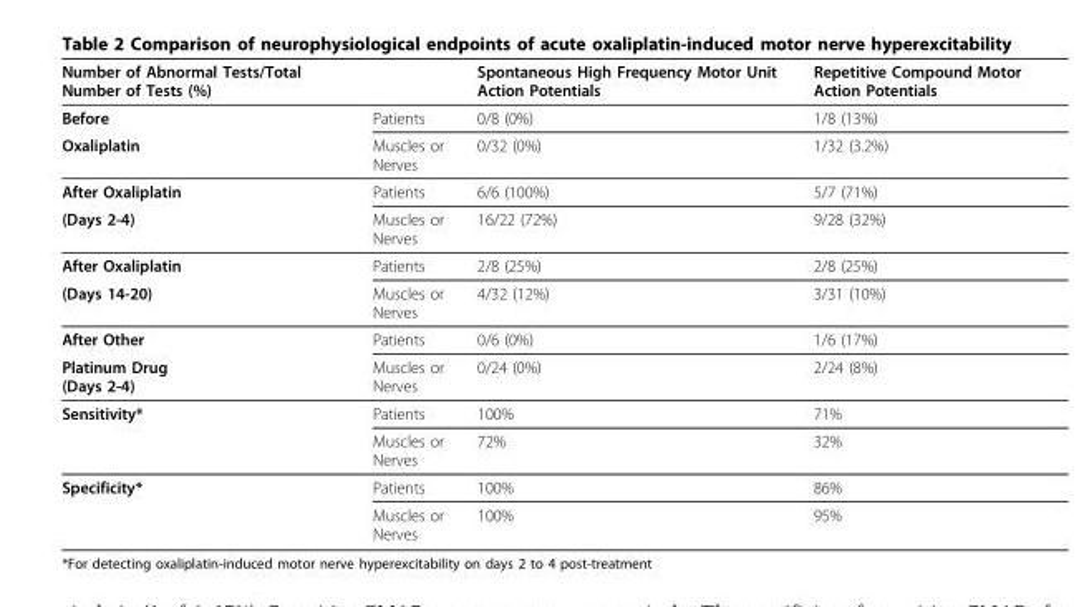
<table><thead><tr><td>Number of Abnormal Tests/Total Number of Tests (%)</td><td></td><td>Spontaneous High Frequency Motor Unit Action Potentials</td><td>Repetitive Compound Motor Action Potentials</td></tr></thead><tbody><tr><td>Before</td><td>Patients</td><td>0/8 (0%)</td><td>1/8 (13%)</td></tr><tr><td>Oxaliplatin</td><td>Muscles or Nerves</td><td>0/32 (0%)</td><td>1/32 (3.2%)</td></tr><tr><td>After Oxaliplatin</td><td>Patients</td><td>6/6 (100%)</td><td>5/7 (71%)</td></tr><tr><td>(Days 2-4)</td><td>Muscles or Nerves</td><td>16/22 (72%)</td><td>9/28 (32%)</td></tr><tr><td>After Oxaliplatin</td><td>Patients</td><td>2/8 (25%)</td><td>2/8 (25%)</td></tr><tr><td>(Days 14-20)</td><td>Muscles or Nerves</td><td>4/32 (12%)</td><td>3/31 (10%)</td></tr><tr><td>After Other</td><td>Patients</td><td>0/6 (0%)</td><td>1/6 (17%)</td></tr><tr><td>Platinum Drug (Days 2-4)</td><td>Muscles or Nerves</td><td>0/24 (0%)</td><td>2/24 (8%)</td></tr><tr><td rowspan="2">Sensitivity*</td><td>Patients</td><td>100%</td><td>71%</td></tr><tr><td>Muscles or Nerves</td><td>72%</td><td>32%</td></tr><tr><td rowspan="2">Specificity*</td><td>Patients</td><td>100%</td><td>86%</td></tr><tr><td>Muscles or Nerves</td><td>100%</td><td>95%</td></tr></tbody></table>